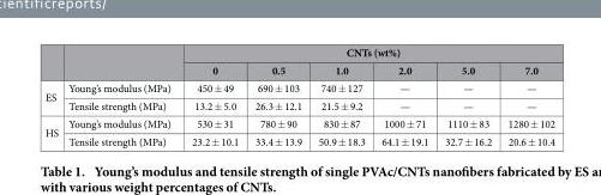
<table><thead><tr><td rowspan="2"></td><td rowspan="2"></td><td colspan="6">CNTs (wt%)</td></tr><tr><td>0</td><td>0.5</td><td>1.0</td><td>2.0</td><td>5.0</td><td>7.0</td></tr></thead><tbody><tr><td rowspan="2">ES</td><td>Young’s modulus (MPa)</td><td>450 ± 49</td><td>690 ± 103</td><td>740 ± 127</td><td>—</td><td>—</td><td>—</td></tr><tr><td>Tensile strength (MPa)</td><td>13.2 ± 5.0</td><td>26.3 ± 12.1</td><td>21.5 ± 9.2</td><td>—</td><td>—</td><td>—</td></tr><tr><td rowspan="2">HS</td><td>Young’s modulus (MPa)</td><td>530 ± 31</td><td>780 ± 90</td><td>830 ± 87</td><td>1000 ± 71</td><td>1110 ± 83</td><td>1280 ± 102</td></tr><tr><td>Tensile strength (MPa)</td><td>23.2 ± 10.1</td><td>33.4 ± 13.9</td><td>50.9 ± 18.3</td><td>64.1 ± 19.1</td><td>32.7 ± 16.2</td><td>20.6 ± 10.4</td></tr></tbody></table>